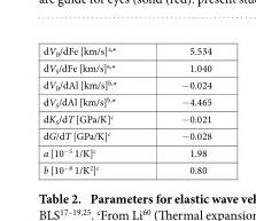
<table><tbody><tr><td>dV<sub>B</sub>/dFe [km/s]<sup>a,</sup>*</td><td>5.534</td></tr><tr><td>dV<sub>S</sub>/dFe [km/s]<sup>a,</sup>*</td><td>1.040</td></tr><tr><td>dV<sub>B</sub>/dAl [km/s]<sup>b,</sup>*</td><td>− 0.024</td></tr><tr><td>dV<sub>S</sub>/dAl [km/s]<sup>b,</sup>*</td><td>− 4.465</td></tr><tr><td>dK<sub>S</sub>/dT [GPa/K]<sup>c</sup></td><td>− 0.021</td></tr><tr><td>dG/dT [GPa/K]<sup>c</sup></td><td>− 0.028</td></tr><tr><td>a [10<sup>−5</sup> 1/K]<sup>c</sup></td><td>1.98</td></tr><tr><td>b [10<sup>−8</sup> 1/K<sup>2</sup>]<sup>c</sup></td><td>0.80</td></tr></tbody></table>